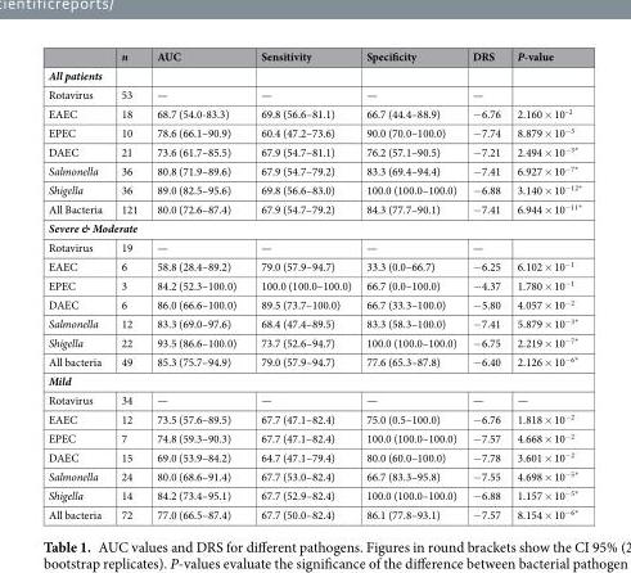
<table><thead><tr><td></td><td>n</td><td>AUC</td><td>Sensitivity</td><td>Specificity</td><td>DRS</td><td>P-value</td></tr></thead><tbody><tr><td colspan="7">All patients</td></tr><tr><td>Rotavirus</td><td>53</td><td>—</td><td>—</td><td>—</td><td>—</td><td></td></tr><tr><td>EAEC</td><td>18</td><td>68.7 (54.0-83.3)</td><td>69.8 (56.6–81.1)</td><td>66.7 (44.4–88.9)</td><td>−6.76</td><td>2.160 × 10<sup>–2</sup></td></tr><tr><td>EPEC</td><td>10</td><td>78.6 (66.1–90.9)</td><td>60.4 (47.2–73.6)</td><td>90.0 (70.0–100.0)</td><td>−7.74</td><td>8.879 × 10<sup>−3</sup></td></tr><tr><td>DAEC</td><td>21</td><td>73.6 (61.7–85.5)</td><td>67.9 (54.7–81.1)</td><td>76.2 (57.1–90.5)</td><td>−7.21</td><td>2.494 × 10<sup>−3*</sup></td></tr><tr><td>Salmonella</td><td>36</td><td>80.8 (71.9–89.6)</td><td>67.9 (54.7–79.2)</td><td>83.3 (69.4–94.4)</td><td>−7.41</td><td>6.927 × 10<sup>−7*</sup></td></tr><tr><td>Shigella</td><td>36</td><td>89.0 (82.5–95.6)</td><td>69.8 (56.6–83.0)</td><td>100.0 (100.0–100.0)</td><td>−6.88</td><td>3.140 × 10<sup>−12*</sup></td></tr><tr><td>All Bacteria</td><td>121</td><td>80.0 (72.6–87.4)</td><td>67.9 (54.7–79.2)</td><td>84.3 (77.7–90.1)</td><td>−7.41</td><td>6.944 × 10<sup>−11*</sup></td></tr><tr><td colspan="7">Severe &amp; Moderate</td></tr><tr><td>Rotavirus</td><td>19</td><td>—</td><td>—</td><td>—</td><td>—</td><td></td></tr><tr><td>EAEC</td><td>6</td><td>58.8 (28.4–89.2)</td><td>79.0 (57.9–94.7)</td><td>33.3 (0.0–66.7)</td><td>−6.25</td><td>6.102 × 10<sup>−1</sup></td></tr><tr><td>EPEC</td><td>3</td><td>84.2 (52.3–100.0)</td><td>100.0 (100.0–100.0)</td><td>66.7 (0.0–100.0)</td><td>−4.37</td><td>1.780 × 10<sup>−1</sup></td></tr><tr><td>DAEC</td><td>6</td><td>86.0 (66.6–100.0)</td><td>89.5 (73.7–100.0)</td><td>66.7 (33.3–100.0)</td><td>−5.80</td><td>4.057 × 10<sup>−2</sup></td></tr><tr><td>Salmonella</td><td>12</td><td>83.3 (69.0–97.6)</td><td>68.4 (47.4–89.5)</td><td>83.3 (58.3–100.0)</td><td>−7.41</td><td>5.879 × 10<sup>−3*</sup></td></tr><tr><td>Shigella</td><td>22</td><td>93.5 (86.6–100.0)</td><td>73.7 (52.6–94.7)</td><td>100.0 (100.0–100.0)</td><td>−6.75</td><td>2.219 × 10<sup>−7*</sup></td></tr><tr><td>All bacteria</td><td>49</td><td>85.3 (75.7–94.9)</td><td>79.0 (57.9–94.7)</td><td>77.6 (65.3–87.8)</td><td>−6.40</td><td>2.126 × 10<sup>−6*</sup></td></tr><tr><td colspan="7">Mild</td></tr><tr><td>Rotavirus</td><td>34</td><td>—</td><td>—</td><td>—</td><td>—</td><td>—</td></tr><tr><td>EAEC</td><td>12</td><td>73.5 (57.6–89.5)</td><td>67.7 (47.1–82.4)</td><td>75.0 (0.5–100.0)</td><td>−6.76</td><td>1.818 × 10<sup>−2</sup></td></tr><tr><td>EPEC</td><td>7</td><td>74.8 (59.3–90.3)</td><td>67.7 (47.1–82.4)</td><td>100.0 (100.0–100.0)</td><td>−7.57</td><td>4.668 × 10<sup>−2</sup></td></tr><tr><td>DAEC</td><td>15</td><td>69.0 (53.9–84.2)</td><td>64.7 (47.1–79.4)</td><td>80.0 (60.0–100.0)</td><td>−7.78</td><td>3.601 × 10<sup>−2</sup></td></tr><tr><td>Salmonella</td><td>24</td><td>80.0 (68.6–91.4)</td><td>67.7 (53.0–82.4)</td><td>66.7 (83.3–95.8)</td><td>−7.55</td><td>4.698 × 10<sup>−5*</sup></td></tr><tr><td>Shigella</td><td>14</td><td>84.2 (73.4–95.1)</td><td>67.7 (52.9–82.4)</td><td>100.0 (100.0–100.0)</td><td>−6.88</td><td>1.157 × 10<sup>−5*</sup></td></tr><tr><td>All bacteria</td><td>72</td><td>77.0 (66.5–87.4)</td><td>67.7 (50.0–82.4)</td><td>86.1 (77.8–93.1)</td><td>−7.57</td><td>8.154 × 10<sup>−6*</sup></td></tr></tbody></table>